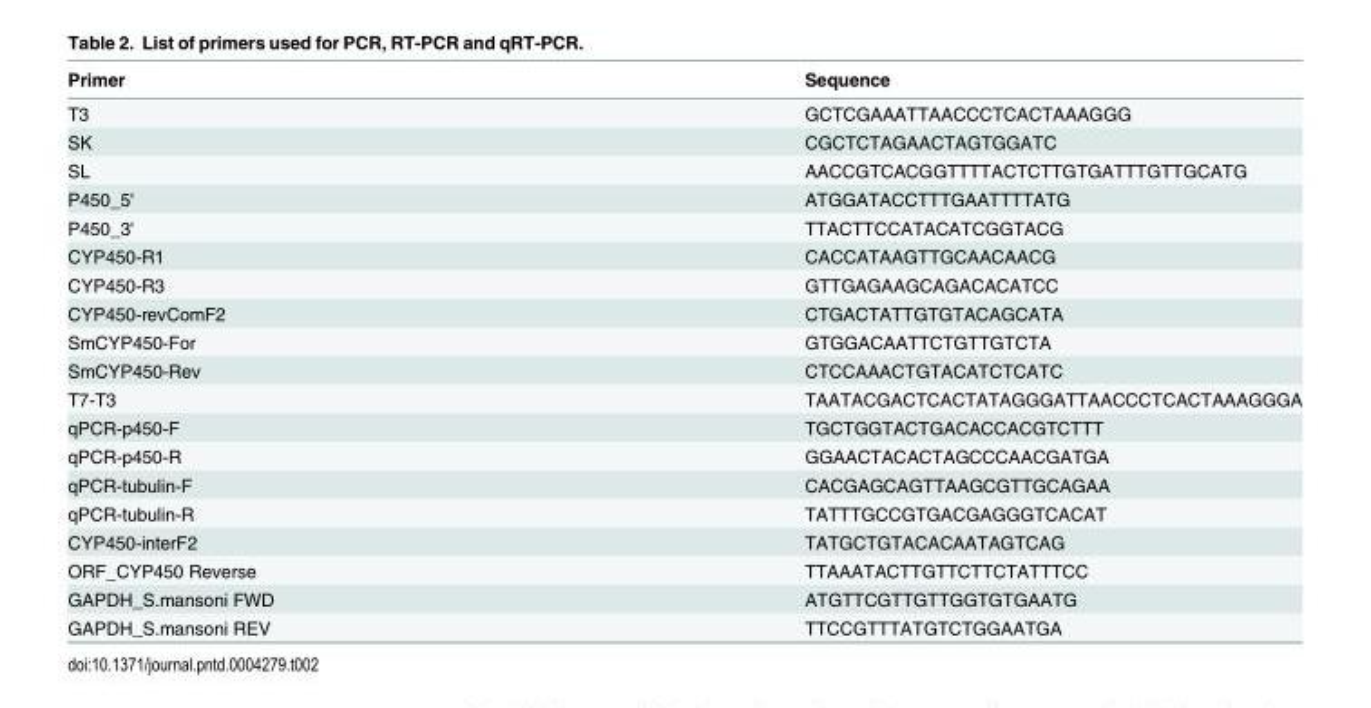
<table><thead><tr><td>Primer</td><td>Sequence</td></tr></thead><tbody><tr><td>T3</td><td>GCTCGAAATTAACCCTCACTAAAGGG</td></tr><tr><td>SK</td><td>CGCTCTAGAACTAGTGGATC</td></tr><tr><td>SL</td><td>AACCGTCACGGTTTTACTCTTGTGATTTGTTGCATG</td></tr><tr><td>P450_5&#x27;</td><td>ATGGATACCTTTGAATTTTATG</td></tr><tr><td>P450_3&#x27;</td><td>TTACTTCCATACATCGGTACG</td></tr><tr><td>CYP450-R1</td><td>CACCATAAGTTGCAACAACG</td></tr><tr><td>CYP450-R3</td><td>GTTGAGAAGCAGACACATCC</td></tr><tr><td>CYP450-revComF2</td><td>CTGACTATTGTGTACAGCATA</td></tr><tr><td>SmCYP450-For</td><td>GTGGACAATTCTGTTGTCTA</td></tr><tr><td>SmCYP450-Rev</td><td>CTCCAAACTGTACATCTCATC</td></tr><tr><td>T7-T3</td><td>TAATACGACTCACTATAGGGATTAACCCTCACTAAAGGGA</td></tr><tr><td>qPCR-p450-F</td><td>TGCTGGTACTGACACCACGTCTTT</td></tr><tr><td>qPCR-p450-R</td><td>GGAACTACACTAGCCCAACGATGA</td></tr><tr><td>qPCR-tubulin-F</td><td>CACGAGCAGTTAAGCGTTGCAGAA</td></tr><tr><td>qPCR-tubulin-R</td><td>TATTTGCCGTGACGAGGGTCACAT</td></tr><tr><td>CYP450-interF2</td><td>TATGCTGTACACAATAGTCAG</td></tr><tr><td>ORF_CYP450 Reverse</td><td>TTAAATACTTGTTCTTCTATTTCC</td></tr><tr><td>GAPDH_S.mansoni FWD</td><td>ATGTTCGTTGTTGGTGTGAATG</td></tr><tr><td>GAPDH_S.mansoni REV</td><td>TTCCGTTTATGTCTGGAATGA</td></tr></tbody></table>